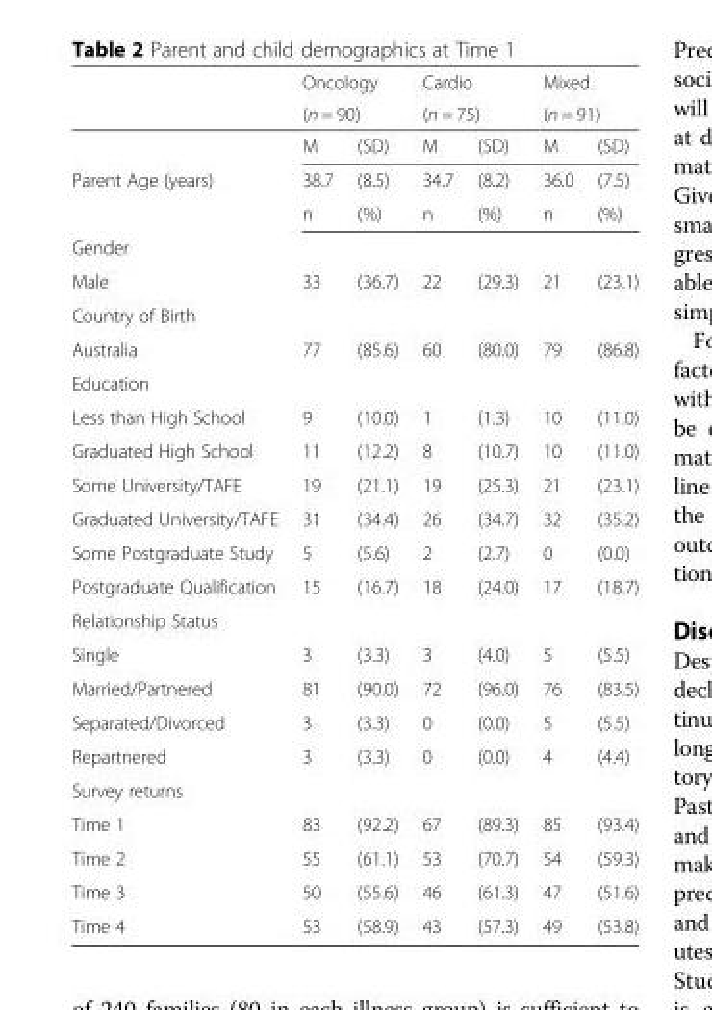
<table><thead><tr><td rowspan="3"></td><td rowspan="2" colspan="2">Oncology (n = 90)</td><td rowspan="2" colspan="2">Cardio (n = 75)</td><td rowspan="2" colspan="2">Mixed (n = 91)</td></tr><tr></tr><tr><td>M</td><td>(SD)</td><td>M</td><td>(SD)</td><td>M</td><td>(SD)</td></tr></thead><tbody><tr><td rowspan="2">Parent Age (years)</td><td>38.7</td><td>(8.5)</td><td>34.7</td><td>(8.2)</td><td>36.0</td><td>(7.5)</td></tr><tr><td>n</td><td>(%)</td><td>n</td><td>(%)</td><td>n</td><td>(%)</td></tr><tr><td colspan="7">Gender</td></tr><tr><td>Male</td><td>33</td><td>(36.7)</td><td>22</td><td>(29.3)</td><td>21</td><td>(23.1)</td></tr><tr><td colspan="7">Country of Birth</td></tr><tr><td>Australia</td><td>77</td><td>(85.6)</td><td>60</td><td>(80.0)</td><td>79</td><td>(86.8)</td></tr><tr><td colspan="7">Education</td></tr><tr><td>Less than High School</td><td>9</td><td>(10.0)</td><td>1</td><td>(1.3)</td><td>10</td><td>(11.0)</td></tr><tr><td>Graduated High School</td><td>11</td><td>(12.2)</td><td>8</td><td>(10.7)</td><td>10</td><td>(11.0)</td></tr><tr><td>Some University/TAFE</td><td>19</td><td>(21.1)</td><td>19</td><td>(25.3)</td><td>21</td><td>(23.1)</td></tr><tr><td>Graduated University/TAFE</td><td>31</td><td>(34.4)</td><td>26</td><td>(34.7)</td><td>32</td><td>(35.2)</td></tr><tr><td>Some Postgraduate Study</td><td>5</td><td>(5.6)</td><td>2</td><td>(2.7)</td><td>0</td><td>(0.0)</td></tr><tr><td>Postgraduate Qualification</td><td>15</td><td>(16.7)</td><td>18</td><td>(24.0)</td><td>17</td><td>(18.7)</td></tr><tr><td colspan="7">Relationship Status</td></tr><tr><td>Single</td><td>3</td><td>(3.3)</td><td>3</td><td>(4.0)</td><td>5</td><td>(5.5)</td></tr><tr><td>Married/Partnered</td><td>81</td><td>(90.0)</td><td>72</td><td>(96.0)</td><td>76</td><td>(83.5)</td></tr><tr><td>Separated/Divorced</td><td>3</td><td>(3.3)</td><td>0</td><td>(0.0)</td><td>5</td><td>(5.5)</td></tr><tr><td>Repartnered</td><td>3</td><td>(3.3)</td><td>0</td><td>(0.0)</td><td>4</td><td>(4.4)</td></tr><tr><td colspan="7">Survey returns</td></tr><tr><td>Time 1</td><td>83</td><td>(92.2)</td><td>67</td><td>(89.3)</td><td>85</td><td>(93.4)</td></tr><tr><td>Time 2</td><td>55</td><td>(61.1)</td><td>53</td><td>(70.7)</td><td>54</td><td>(59.3)</td></tr><tr><td>Time 3</td><td>50</td><td>(55.6)</td><td>46</td><td>(61.3)</td><td>47</td><td>(51.6)</td></tr><tr><td>Time 4</td><td>53</td><td>(58.9)</td><td>43</td><td>(57.3)</td><td>49</td><td>(53.8)</td></tr></tbody></table>